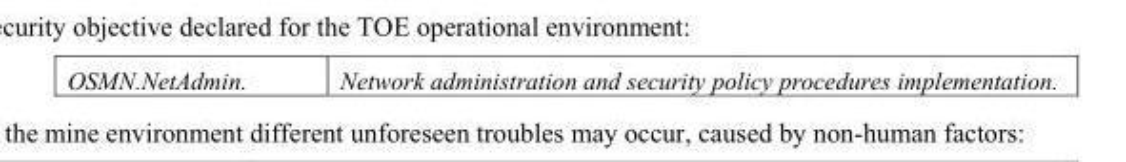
<table><tbody><tr><td>OSMN.NetAdmin.</td><td>Network administration and security policy procedures implementation.</td></tr></tbody></table>